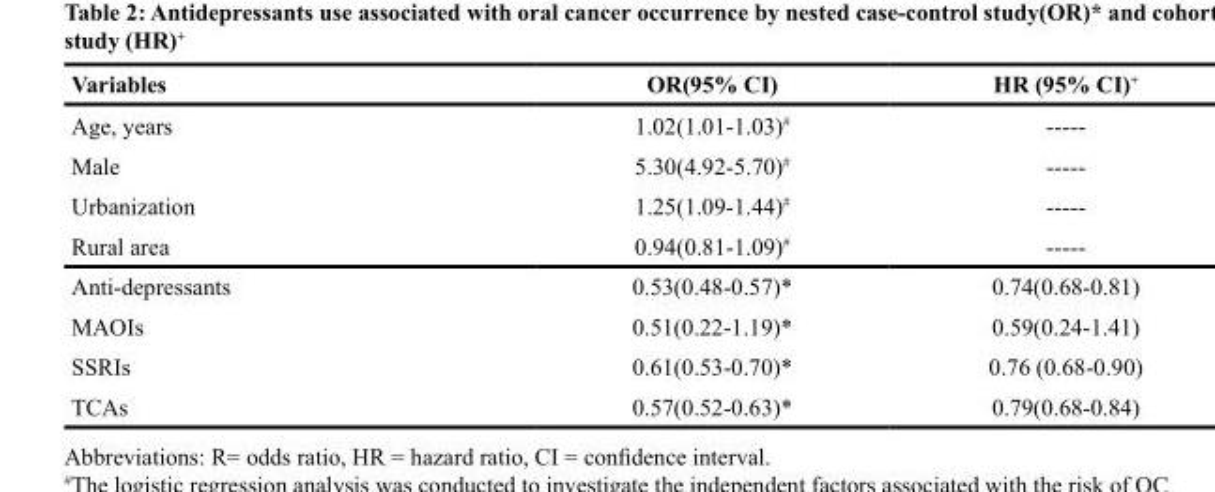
<table><thead><tr><td>Variables</td><td>OR(95% CI)</td><td>HR (95% CI)<sup>+</sup></td></tr></thead><tbody><tr><td>Age, years</td><td>1.02(1.01-1.03)<sup>#</sup></td><td>-----</td></tr><tr><td>Male</td><td>5.30(4.92-5.70)<sup>#</sup></td><td>-----</td></tr><tr><td>Urbanization</td><td>1.25(1.09-1.44)<sup>#</sup></td><td>-----</td></tr><tr><td>Rural area</td><td>0.94(0.81-1.09)<sup>#</sup></td><td>-----</td></tr><tr><td>Anti-depressants</td><td>0.53(0.48-0.57)*</td><td>0.74(0.68-0.81)</td></tr><tr><td>MAOIs</td><td>0.51(0.22-1.19)*</td><td>0.59(0.24-1.41)</td></tr><tr><td>SSRIs</td><td>0.61(0.53-0.70)*</td><td>0.76 (0.68-0.90)</td></tr><tr><td>TCAs</td><td>0.57(0.52-0.63)*</td><td>0.79(0.68-0.84)</td></tr></tbody></table>